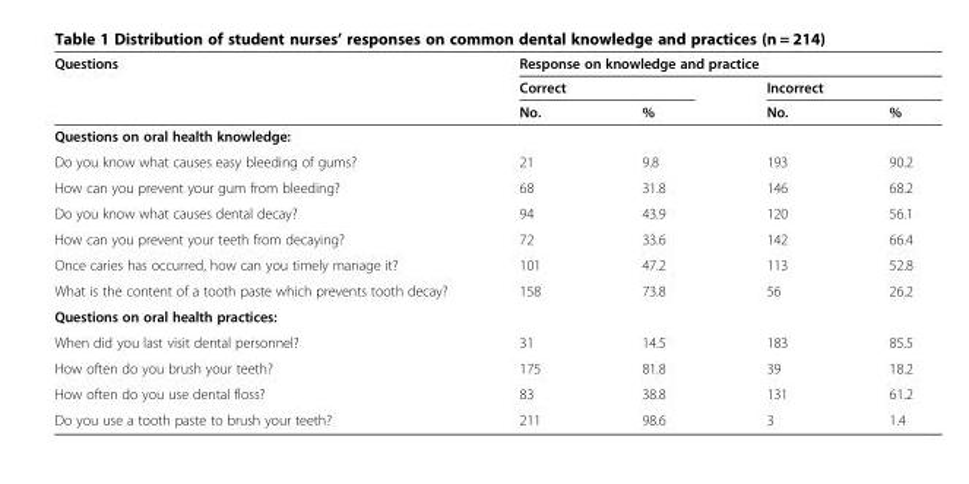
<table><thead><tr><td rowspan="3">Questions</td><td colspan="4">Response on knowledge and practice</td></tr><tr><td colspan="2">Correct</td><td colspan="2">Incorrect</td></tr><tr><td>No.</td><td>%</td><td>No.</td><td>%</td></tr></thead><tbody><tr><td colspan="5">Questions on oral health knowledge:</td></tr><tr><td>Do you know what causes easy bleeding of gums?</td><td>21</td><td>9.8</td><td>193</td><td>90.2</td></tr><tr><td>How can you prevent your gum from bleeding?</td><td>68</td><td>31.8</td><td>146</td><td>68.2</td></tr><tr><td>Do you know what causes dental decay?</td><td>94</td><td>43.9</td><td>120</td><td>56.1</td></tr><tr><td>How can you prevent your teeth from decaying?</td><td>72</td><td>33.6</td><td>142</td><td>66.4</td></tr><tr><td>Once caries has occurred, how can you timely manage it?</td><td>101</td><td>47.2</td><td>113</td><td>52.8</td></tr><tr><td>What is the content of a tooth paste which prevents tooth decay?</td><td>158</td><td>73.8</td><td>56</td><td>26.2</td></tr><tr><td colspan="5">Questions on oral health practices:</td></tr><tr><td>When did you last visit dental personnel?</td><td>31</td><td>14.5</td><td>183</td><td>85.5</td></tr><tr><td>How often do you brush your teeth?</td><td>175</td><td>81.8</td><td>39</td><td>18.2</td></tr><tr><td>How often do you use dental floss?</td><td>83</td><td>38.8</td><td>131</td><td>61.2</td></tr><tr><td>Do you use a tooth paste to brush your teeth?</td><td>211</td><td>98.6</td><td>3</td><td>1.4</td></tr></tbody></table>